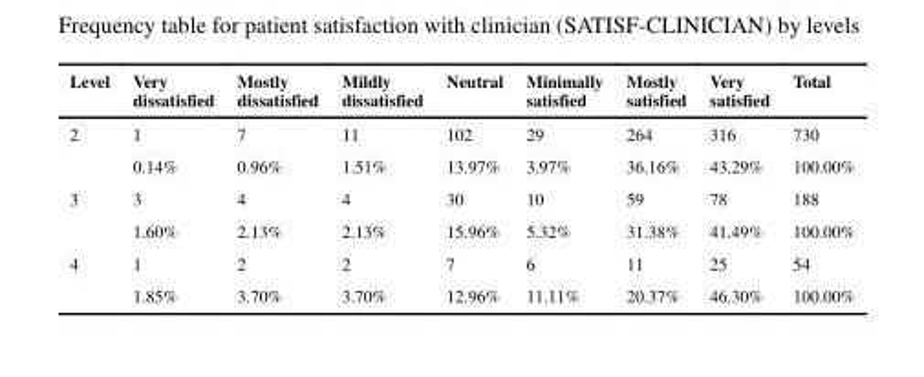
<table><thead><tr><td>Level</td><td>Very dissatisfied</td><td>Mostly dissatisfied</td><td>Mildly dissatisfied</td><td>Neutral</td><td>Minimally satisfied</td><td>Mostly satisfied</td><td>Very satisfied</td><td>Total</td></tr></thead><tbody><tr><td rowspan="2">2</td><td>1</td><td>7</td><td>11</td><td>102</td><td>29</td><td>264</td><td>316</td><td>730</td></tr><tr><td>0.14%</td><td>0.96%</td><td>1.51%</td><td>13.97%</td><td>3.97%</td><td>36.16%</td><td>43.29%</td><td>100.00%</td></tr><tr><td rowspan="2">3</td><td>3</td><td>4</td><td>4</td><td>30</td><td>10</td><td>59</td><td>78</td><td>188</td></tr><tr><td>1.60%</td><td>2.13%</td><td>2.13%</td><td>15.96%</td><td>5.32%</td><td>31.38%</td><td>41.49%</td><td>100.00%</td></tr><tr><td rowspan="2">4</td><td>1</td><td>2</td><td>2</td><td>7</td><td>6</td><td>11</td><td>25</td><td>54</td></tr><tr><td>1.85%</td><td>3.70%</td><td>3.70%</td><td>12.96%</td><td>11.11%</td><td>20.37%</td><td>46.30%</td><td>100.00%</td></tr></tbody></table>